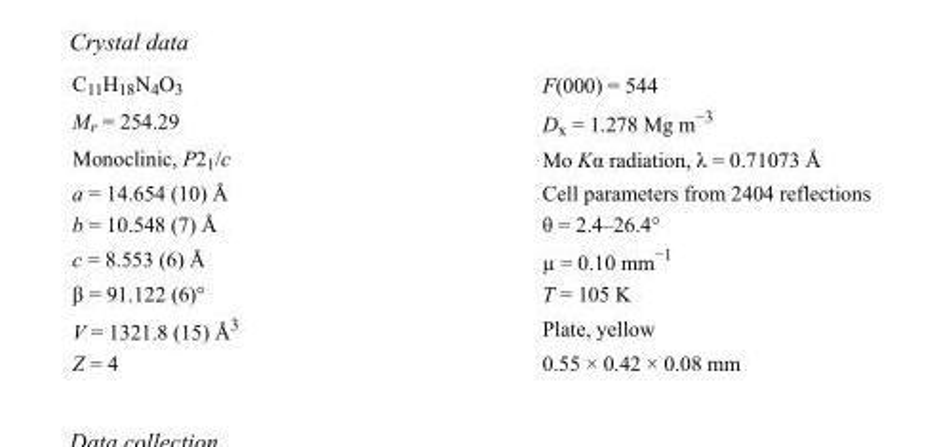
<table><tbody><tr><td>C<sub>11</sub>H<sub>18</sub>N<sub>4</sub>O<sub>3</sub></td><td>F(000) = 544</td></tr><tr><td>M<sub>r</sub> = 254.29</td><td>D<sub>x</sub> = 1.278 Mg m<sup>−3</sup></td></tr><tr><td>Monoclinic, P2<sub>1</sub>/c</td><td>Mo Kα radiation, λ = 0.71073 Å</td></tr><tr><td>a = 14.654 (10) Å</td><td>Cell parameters from 2404 reflections</td></tr><tr><td>b = 10.548 (7) Å</td><td>θ = 2.4–26.4°</td></tr><tr><td>c = 8.553 (6) Å</td><td>µ = 0.10 mm<sup>−1</sup></td></tr><tr><td>β = 91.122 (6)°</td><td>T = 105 K</td></tr><tr><td>V = 1321.8 (15) Å<sup>3</sup></td><td>Plate, yellow</td></tr><tr><td>Z = 4</td><td>0.55 × 0.42 × 0.08 mm</td></tr></tbody></table>